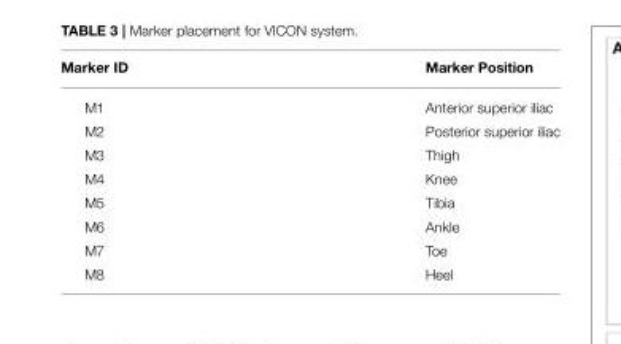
<table><thead><tr><td>Marker ID</td><td>Marker Position</td></tr></thead><tbody><tr><td>M1</td><td>Anterior superior iliac</td></tr><tr><td>M2</td><td>Posterior superior iliac</td></tr><tr><td>M3</td><td>Thigh</td></tr><tr><td>M4</td><td>Knee</td></tr><tr><td>M5</td><td>Tibia</td></tr><tr><td>M6</td><td>Ankle</td></tr><tr><td>M7</td><td>Toe</td></tr><tr><td>M8</td><td>Heel</td></tr></tbody></table>